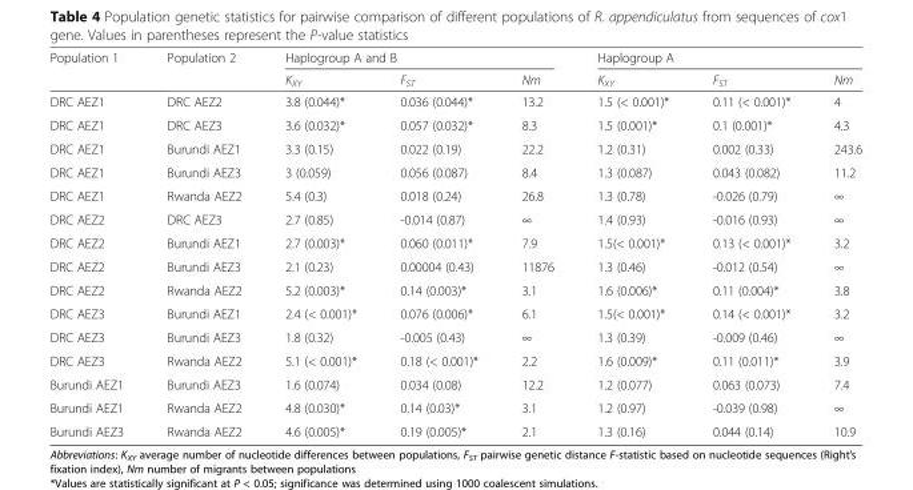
<table><thead><tr><td rowspan="2">Population 1</td><td rowspan="2">Population 2</td><td colspan="3">Haplogroup A and B</td><td colspan="3">Haplogroup A</td></tr><tr><td>K<sub>XY</sub></td><td>F<sub>ST</sub></td><td>Nm</td><td>K<sub>XY</sub></td><td>F<sub>ST</sub></td><td>Nm</td></tr></thead><tbody><tr><td>DRC AEZ1</td><td>DRC AEZ2</td><td>3.8 (0.044)*</td><td>0.036 (0.044)*</td><td>13.2</td><td>1.5 (&lt; 0.001)*</td><td>0.11 (&lt; 0.001)*</td><td>4</td></tr><tr><td>DRC AEZ1</td><td>DRC AEZ3</td><td>3.6 (0.032)*</td><td>0.057 (0.032)*</td><td>8.3</td><td>1.5 (0.001)*</td><td>0.1 (0.001)*</td><td>4.3</td></tr><tr><td>DRC AEZ1</td><td>Burundi AEZ1</td><td>3.3 (0.15)</td><td>0.022 (0.19)</td><td>22.2</td><td>1.2 (0.31)</td><td>0.002 (0.33)</td><td>243.6</td></tr><tr><td>DRC AEZ1</td><td>Burundi AEZ3</td><td>3 (0.059)</td><td>0.056 (0.087)</td><td>8.4</td><td>1.3 (0.087)</td><td>0.043 (0.082)</td><td>11.2</td></tr><tr><td>DRC AEZ1</td><td>Rwanda AEZ2</td><td>5.4 (0.3)</td><td>0.018 (0.24)</td><td>26.8</td><td>1.3 (0.78)</td><td>-0.026 (0.79)</td><td>∞</td></tr><tr><td>DRC AEZ2</td><td>DRC AEZ3</td><td>2.7 (0.85)</td><td>-0.014 (0.87)</td><td>∞</td><td>1.4 (0.93)</td><td>-0.016 (0.93)</td><td>∞</td></tr><tr><td>DRC AEZ2</td><td>Burundi AEZ1</td><td>2.7 (0.003)*</td><td>0.060 (0.011)*</td><td>7.9</td><td>1.5(&lt; 0.001)*</td><td>0.13 (&lt; 0.001)*</td><td>3.2</td></tr><tr><td>DRC AEZ2</td><td>Burundi AEZ3</td><td>2.1 (0.23)</td><td>0.00004 (0.43)</td><td>11876</td><td>1.3 (0.46)</td><td>-0.012 (0.54)</td><td>∞</td></tr><tr><td>DRC AEZ2</td><td>Rwanda AEZ2</td><td>5.2 (0.003)*</td><td>0.14 (0.003)*</td><td>3.1</td><td>1.6 (0.006)*</td><td>0.11 (0.004)*</td><td>3.8</td></tr><tr><td>DRC AEZ3</td><td>Burundi AEZ1</td><td>2.4 (&lt; 0.001)*</td><td>0.076 (0.006)*</td><td>6.1</td><td>1.5(&lt; 0.001)*</td><td>0.14 (&lt; 0.001)*</td><td>3.2</td></tr><tr><td>DRC AEZ3</td><td>Burundi AEZ3</td><td>1.8 (0.32)</td><td>-0.005 (0.43)</td><td>∞</td><td>1.3 (0.39)</td><td>-0.009 (0.46)</td><td>∞</td></tr><tr><td>DRC AEZ3</td><td>Rwanda AEZ2</td><td>5.1 (&lt; 0.001)*</td><td>0.18 (&lt; 0.001)*</td><td>2.2</td><td>1.6 (0.009)*</td><td>0.11 (0.011)*</td><td>3.9</td></tr><tr><td>Burundi AEZ1</td><td>Burundi AEZ3</td><td>1.6 (0.074)</td><td>0.034 (0.08)</td><td>12.2</td><td>1.2 (0.077)</td><td>0.063 (0.073)</td><td>7.4</td></tr><tr><td>Burundi AEZ1</td><td>Rwanda AEZ2</td><td>4.8 (0.030)*</td><td>0.14 (0.03)*</td><td>3.1</td><td>1.2 (0.97)</td><td>-0.039 (0.98)</td><td>∞</td></tr><tr><td>Burundi AEZ3</td><td>Rwanda AEZ2</td><td>4.6 (0.005)*</td><td>0.19 (0.005)*</td><td>2.1</td><td>1.3 (0.16)</td><td>0.044 (0.14)</td><td>10.9</td></tr></tbody></table>